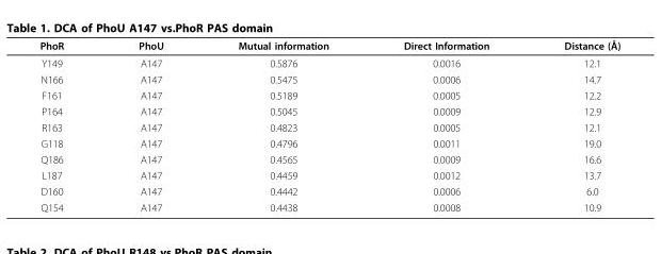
<table><thead><tr><td>PhoR</td><td>PhoU</td><td>Mutual information</td><td>Direct Information</td><td>Distance (Å)</td></tr></thead><tbody><tr><td>Y149</td><td>A147</td><td>0.5876</td><td>0.0016</td><td>12.1</td></tr><tr><td>N166</td><td>A147</td><td>0.5475</td><td>0.0006</td><td>14.7</td></tr><tr><td>F161</td><td>A147</td><td>0.5189</td><td>0.0005</td><td>12.2</td></tr><tr><td>P164</td><td>A147</td><td>0.5045</td><td>0.0009</td><td>12.9</td></tr><tr><td>R163</td><td>A147</td><td>0.4823</td><td>0.0005</td><td>12.1</td></tr><tr><td>G118</td><td>A147</td><td>0.4796</td><td>0.0011</td><td>19.0</td></tr><tr><td>Q186</td><td>A147</td><td>0.4565</td><td>0.0009</td><td>16.6</td></tr><tr><td>L187</td><td>A147</td><td>0.4459</td><td>0.0012</td><td>13.7</td></tr><tr><td>D160</td><td>A147</td><td>0.4442</td><td>0.0006</td><td>6.0</td></tr><tr><td>Q154</td><td>A147</td><td>0.4438</td><td>0.0008</td><td>10.9</td></tr></tbody></table>